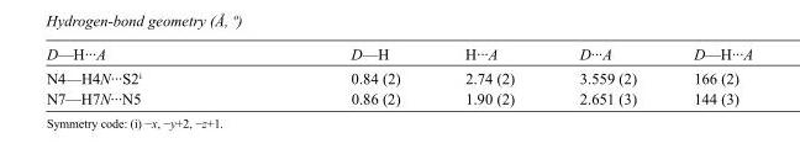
<table><tbody><tr><td>D—H···A</td><td>D—H</td><td>H···A</td><td>D···A</td><td>D—H···A</td></tr><tr><td>N4—H4N···S2<sup>i</sup></td><td>0.84 (2)</td><td>2.74 (2)</td><td>3.559 (2)</td><td>166 (2)</td></tr><tr><td>N7—H7N···N5</td><td>0.86 (2)</td><td>1.90 (2)</td><td>2.651 (3)</td><td>144 (3)</td></tr></tbody></table>